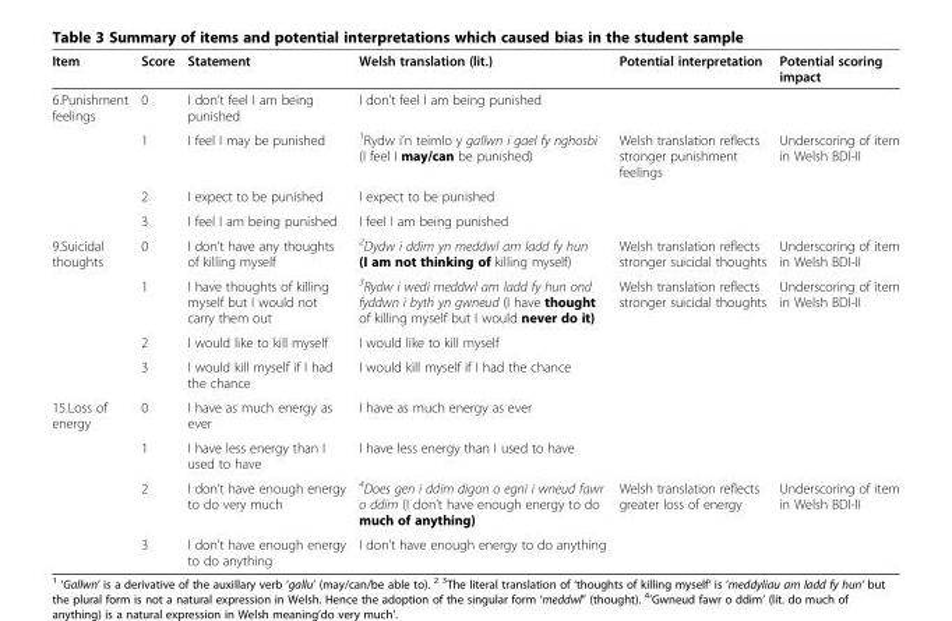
<table><thead><tr><td>Item</td><td>Score</td><td>Statement</td><td>Welsh translation (lit.)</td><td>Potential interpretation</td><td>Potential scoring impact</td></tr></thead><tbody><tr><td rowspan="4">6.Punishment feelings</td><td>0</td><td>I don’t feel I am being punished</td><td>I don’t feel I am being punished</td><td></td><td></td></tr><tr><td>1</td><td>I feel I may be punished</td><td><sup>1</sup>Rydw i’n teimlo y gallwn i gael fy nghosbi (I feel I may/can be punished)</td><td>Welsh translation reflects stronger punishment feelings</td><td>Underscoring of item in Welsh BDI-II</td></tr><tr><td>2</td><td>I expect to be punished</td><td>I expect to be punished</td><td></td><td></td></tr><tr><td>3</td><td>I feel I am being punished</td><td>I feel I am being punished</td><td></td><td></td></tr><tr><td rowspan="4">9.Suicidal thoughts</td><td>0</td><td>I don’t have any thoughts of killing myself</td><td><sup>2</sup>Dydw i ddim yn meddwl am ladd fy hun (I am not thinking of killing myself)</td><td>Welsh translation reflects stronger suicidal thoughts</td><td>Underscoring of item in Welsh BDI-II</td></tr><tr><td>1</td><td>I have thoughts of killing myself but I would not carry them out</td><td><sup>3</sup>Rydw i wedi meddwl am ladd fy hun ond fyddwn i byth yn gwneud (I have thought of killing myself but I would never do it)</td><td>Welsh translation reflects stronger suicidal thoughts</td><td>Underscoring of item in Welsh BDI-II</td></tr><tr><td>2</td><td>I would like to kill myself</td><td>I would like to kill myself</td><td></td><td></td></tr><tr><td>3</td><td>I would kill myself if I had the chance</td><td>I would kill myself if I had the chance</td><td></td><td></td></tr><tr><td rowspan="4">15.Loss of energy</td><td>0</td><td>I have as much energy as ever</td><td>I have as much energy as ever</td><td></td><td></td></tr><tr><td>1</td><td>I have less energy than I used to have</td><td>I have less energy than I used to have</td><td></td><td></td></tr><tr><td>2</td><td>I don’t have enough energy to do very much</td><td><sup>4</sup>Does gen i ddim digon o egni i wneud fawr o ddim (I don’t have enough energy to do much of anything)</td><td>Welsh translation reflects greater loss of energy</td><td>Underscoring of item in Welsh BDI-II</td></tr><tr><td>3</td><td>I don’t have enough energy to do anything</td><td>I don’t have enough energy to do anything</td><td></td><td></td></tr></tbody></table>